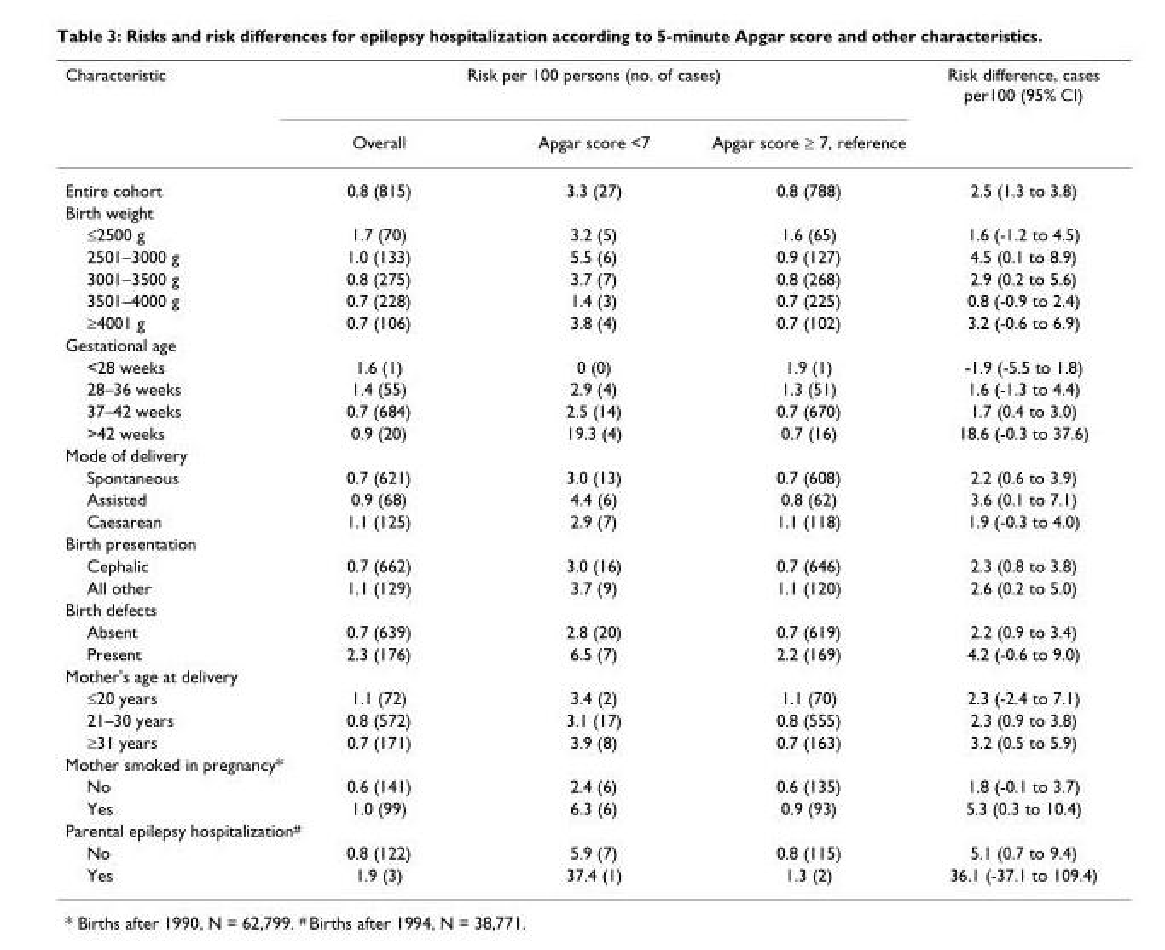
<table><thead><tr><td rowspan="2">Characteristic</td><td colspan="3">Risk per 100 persons (no. of cases)</td><td rowspan="2">Risk difference, cases per100 (95% CI)</td></tr><tr><td>Overall</td><td>Apgar score &lt;7</td><td>Apgar score ≥ 7, reference</td></tr></thead><tbody><tr><td>Entire cohort</td><td>0.8 (815)</td><td>3.3 (27)</td><td>0.8 (788)</td><td>2.5 (1.3 to 3.8)</td></tr><tr><td colspan="5">Birth weight</td></tr><tr><td>≤2500 g</td><td>1.7 (70)</td><td>3.2 (5)</td><td>1.6 (65)</td><td>1.6 (-1.2 to 4.5)</td></tr><tr><td>2501–3000 g</td><td>1.0 (133)</td><td>5.5 (6)</td><td>0.9 (127)</td><td>4.5 (0.1 to 8.9)</td></tr><tr><td>3001–3500 g</td><td>0.8 (275)</td><td>3.7 (7)</td><td>0.8 (268)</td><td>2.9 (0.2 to 5.6)</td></tr><tr><td>3501–4000 g</td><td>0.7 (228)</td><td>1.4 (3)</td><td>0.7 (225)</td><td>0.8 (-0.9 to 2.4)</td></tr><tr><td>≥4001 g</td><td>0.7 (106)</td><td>3.8 (4)</td><td>0.7 (102)</td><td>3.2 (-0.6 to 6.9)</td></tr><tr><td colspan="5">Gestational age</td></tr><tr><td>&lt;28 weeks</td><td>1.6 (1)</td><td>0 (0)</td><td>1.9 (1)</td><td>-1.9 (-5.5 to 1.8)</td></tr><tr><td>28–36 weeks</td><td>1.4 (55)</td><td>2.9 (4)</td><td>1.3 (51)</td><td>1.6 (-1.3 to 4.4)</td></tr><tr><td>37–42 weeks</td><td>0.7 (684)</td><td>2.5 (14)</td><td>0.7 (670)</td><td>1.7 (0.4 to 3.0)</td></tr><tr><td>&gt;42 weeks</td><td>0.9 (20)</td><td>19.3 (4)</td><td>0.7 (16)</td><td>18.6 (-0.3 to 37.6)</td></tr><tr><td colspan="5">Mode of delivery</td></tr><tr><td>Spontaneous</td><td>0.7 (621)</td><td>3.0 (13)</td><td>0.7 (608)</td><td>2.2 (0.6 to 3.9)</td></tr><tr><td>Assisted</td><td>0.9 (68)</td><td>4.4 (6)</td><td>0.8 (62)</td><td>3.6 (0.1 to 7.1)</td></tr><tr><td>Caesarean</td><td>1.1 (125)</td><td>2.9 (7)</td><td>1.1 (118)</td><td>1.9 (-0.3 to 4.0)</td></tr><tr><td colspan="5">Birth presentation</td></tr><tr><td>Cephalic</td><td>0.7 (662)</td><td>3.0 (16)</td><td>0.7 (646)</td><td>2.3 (0.8 to 3.8)</td></tr><tr><td>All other</td><td>1.1 (129)</td><td>3.7 (9)</td><td>1.1 (120)</td><td>2.6 (0.2 to 5.0)</td></tr><tr><td colspan="5">Birth defects</td></tr><tr><td>Absent</td><td>0.7 (639)</td><td>2.8 (20)</td><td>0.7 (619)</td><td>2.2 (0.9 to 3.4)</td></tr><tr><td>Present</td><td>2.3 (176)</td><td>6.5 (7)</td><td>2.2 (169)</td><td>4.2 (-0.6 to 9.0)</td></tr><tr><td colspan="5">Mother&#x27;s age at delivery</td></tr><tr><td>≤20 years</td><td>1.1 (72)</td><td>3.4 (2)</td><td>1.1 (70)</td><td>2.3 (-2.4 to 7.1)</td></tr><tr><td>21–30 years</td><td>0.8 (572)</td><td>3.1 (17)</td><td>0.8 (555)</td><td>2.3 (0.9 to 3.8)</td></tr><tr><td>≥31 years</td><td>0.7 (171)</td><td>3.9 (8)</td><td>0.7 (163)</td><td>3.2 (0.5 to 5.9)</td></tr><tr><td colspan="5">Mother smoked in pregnancy*</td></tr><tr><td>No</td><td>0.6 (141)</td><td>2.4 (6)</td><td>0.6 (135)</td><td>1.8 (-0.1 to 3.7)</td></tr><tr><td>Yes</td><td>1.0 (99)</td><td>6.3 (6)</td><td>0.9 (93)</td><td>5.3 (0.3 to 10.4)</td></tr><tr><td colspan="5">Parental epilepsy hospitalization#</td></tr><tr><td>No</td><td>0.8 (122)</td><td>5.9 (7)</td><td>0.8 (115)</td><td>5.1 (0.7 to 9.4)</td></tr><tr><td>Yes</td><td>1.9 (3)</td><td>37.4 (1)</td><td>1.3 (2)</td><td>36.1 (-37.1 to 109.4)</td></tr></tbody></table>